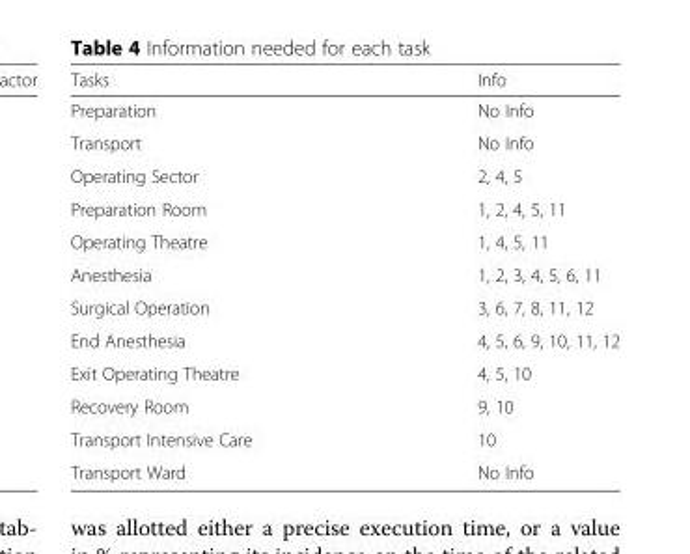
<table><thead><tr><td>Tasks</td><td>Info</td></tr></thead><tbody><tr><td>Preparation</td><td>No Info</td></tr><tr><td>Transport</td><td>No Info</td></tr><tr><td>Operating Sector</td><td>2, 4, 5</td></tr><tr><td>Preparation Room</td><td>1, 2, 4, 5, 11</td></tr><tr><td>Operating Theatre</td><td>1, 4, 5, 11</td></tr><tr><td>Anesthesia</td><td>1, 2, 3, 4, 5, 6, 11</td></tr><tr><td>Surgical Operation</td><td>3, 6, 7, 8, 11, 12</td></tr><tr><td>End Anesthesia</td><td>4, 5, 6, 9, 10, 11, 12</td></tr><tr><td>Exit Operating Theatre</td><td>4, 5, 10</td></tr><tr><td>Recovery Room</td><td>9, 10</td></tr><tr><td>Transport Intensive Care</td><td>10</td></tr><tr><td>Transport Ward</td><td>No Info</td></tr></tbody></table>